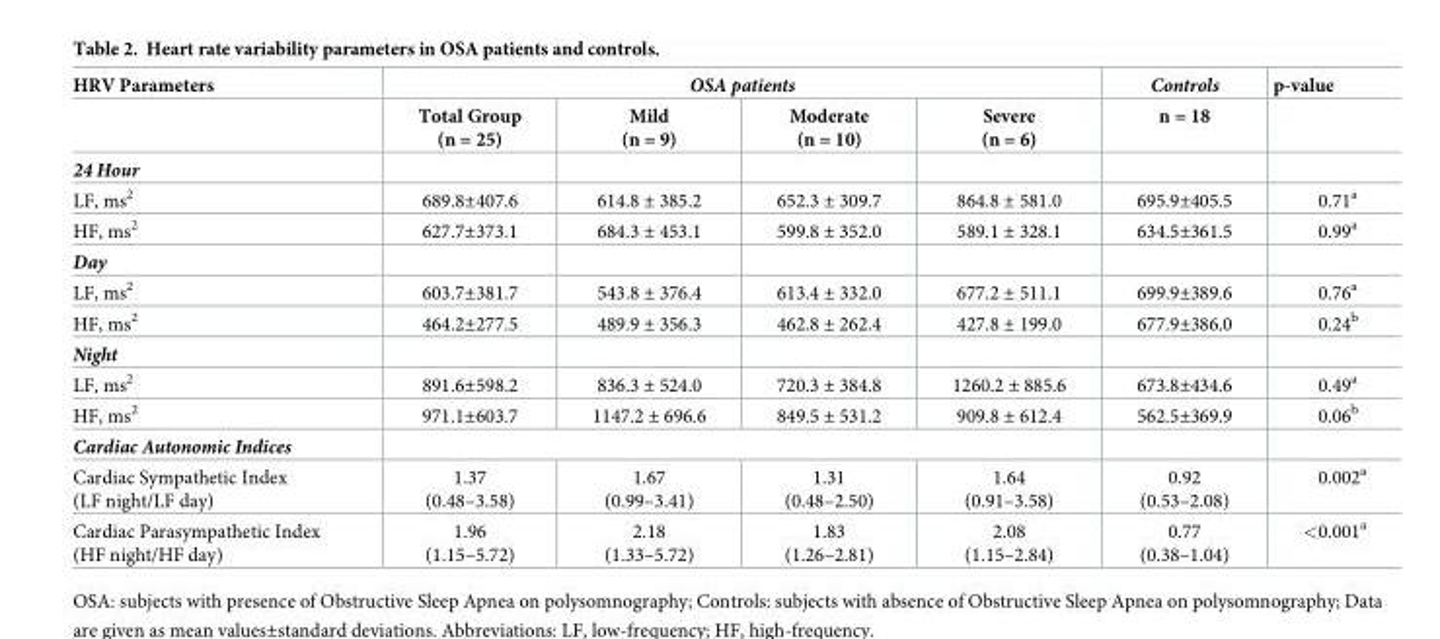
<table><thead><tr><td rowspan="2">HRV Parameters</td><td colspan="4">OSA patients</td><td rowspan="2">Controls n = 18</td><td rowspan="2">p-value</td></tr><tr><td>Total Group (n = 25)</td><td>Mild (n = 9)</td><td>Moderate (n = 10)</td><td>Severe (n = 6)</td></tr></thead><tbody><tr><td colspan="7">24 Hour</td></tr><tr><td>LF, ms<sup>2</sup></td><td>689.8±407.6</td><td>614.8 ± 385.2</td><td>652.3 ± 309.7</td><td>864.8 ± 581.0</td><td>695.9±405.5</td><td>0.71<sup>a</sup></td></tr><tr><td>HF, ms<sup>2</sup></td><td>627.7±373.1</td><td>684.3 ± 453.1</td><td>599.8 ± 352.0</td><td>589.1 ± 328.1</td><td>634.5±361.5</td><td>0.99<sup>a</sup></td></tr><tr><td colspan="7">Day</td></tr><tr><td>LF, ms<sup>2</sup></td><td>603.7±381.7</td><td>543.8 ± 376.4</td><td>613.4 ± 332.0</td><td>677.2 ± 511.1</td><td>699.9±389.6</td><td>0.76<sup>a</sup></td></tr><tr><td>HF, ms<sup>2</sup></td><td>464.2±277.5</td><td>489.9 ± 356.3</td><td>462.8 ± 262.4</td><td>427.8 ± 199.0</td><td>677.9±386.0</td><td>0.24<sup>b</sup></td></tr><tr><td colspan="7">Night</td></tr><tr><td>LF, ms<sup>2</sup></td><td>891.6±598.2</td><td>836.3 ± 524.0</td><td>720.3 ± 384.8</td><td>1260.2 ± 885.6</td><td>673.8±434.6</td><td>0.49<sup>a</sup></td></tr><tr><td>HF, ms<sup>2</sup></td><td>971.1±603.7</td><td>1147.2 ± 696.6</td><td>849.5 ± 531.2</td><td>909.8 ± 612.4</td><td>562.5±369.9</td><td>0.06<sup>b</sup></td></tr><tr><td colspan="7">Cardiac Autonomic Indices</td></tr><tr><td>Cardiac Sympathetic Index (LF night/LF day)</td><td>1.37 (0.48–3.58)</td><td>1.67 (0.99–3.41)</td><td>1.31 (0.48–2.50)</td><td>1.64 (0.91–3.58)</td><td>0.92 (0.53–2.08)</td><td>0.002<sup>a</sup></td></tr><tr><td>Cardiac Parasympathetic Index (HF night/HF day)</td><td>1.96 (1.15–5.72)</td><td>2.18 (1.33–5.72)</td><td>1.83 (1.26–2.81)</td><td>2.08 (1.15–2.84)</td><td>0.77 (0.38–1.04)</td><td>&lt;0.001<sup>a</sup></td></tr></tbody></table>